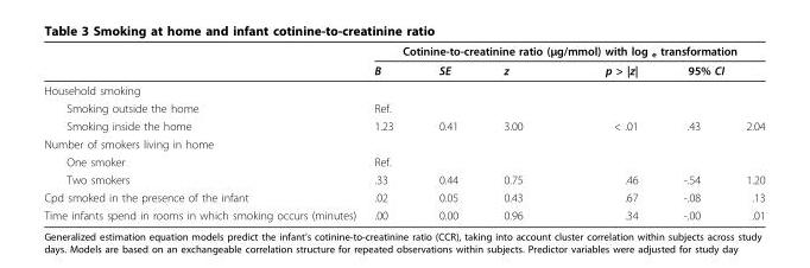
<table><thead><tr><td rowspan="3">Household smoking</td><td colspan="6">Cotinine-to-creatinine ratio (μg/mmol) with log <sub>e</sub> transformation</td></tr><tr><td rowspan="2">B</td><td rowspan="2">SE</td><td rowspan="2">z</td><td rowspan="2">p &gt; |z|</td><td colspan="2">95% CI</td></tr><tr><td></td><td></td></tr></thead><tbody><tr><td>Smoking outside the home</td><td>Ref.</td><td></td><td></td><td></td><td></td><td></td></tr><tr><td>Smoking inside the home</td><td>1.23</td><td>0.41</td><td>3.00</td><td>&lt; .01</td><td>.43</td><td>2.04</td></tr><tr><td colspan="7">Number of smokers living in home</td></tr><tr><td>One smoker</td><td>Ref.</td><td></td><td></td><td></td><td></td><td></td></tr><tr><td>Two smokers</td><td>.33</td><td>0.44</td><td>0.75</td><td>.46</td><td>-.54</td><td>1.20</td></tr><tr><td>Cpd smoked in the presence of the infant</td><td>.02</td><td>0.05</td><td>0.43</td><td>.67</td><td>-.08</td><td>.13</td></tr><tr><td>Time infants spend in rooms in which smoking occurs (minutes)</td><td>.00</td><td>0.00</td><td>0.96</td><td>.34</td><td>-.00</td><td>.01</td></tr></tbody></table>